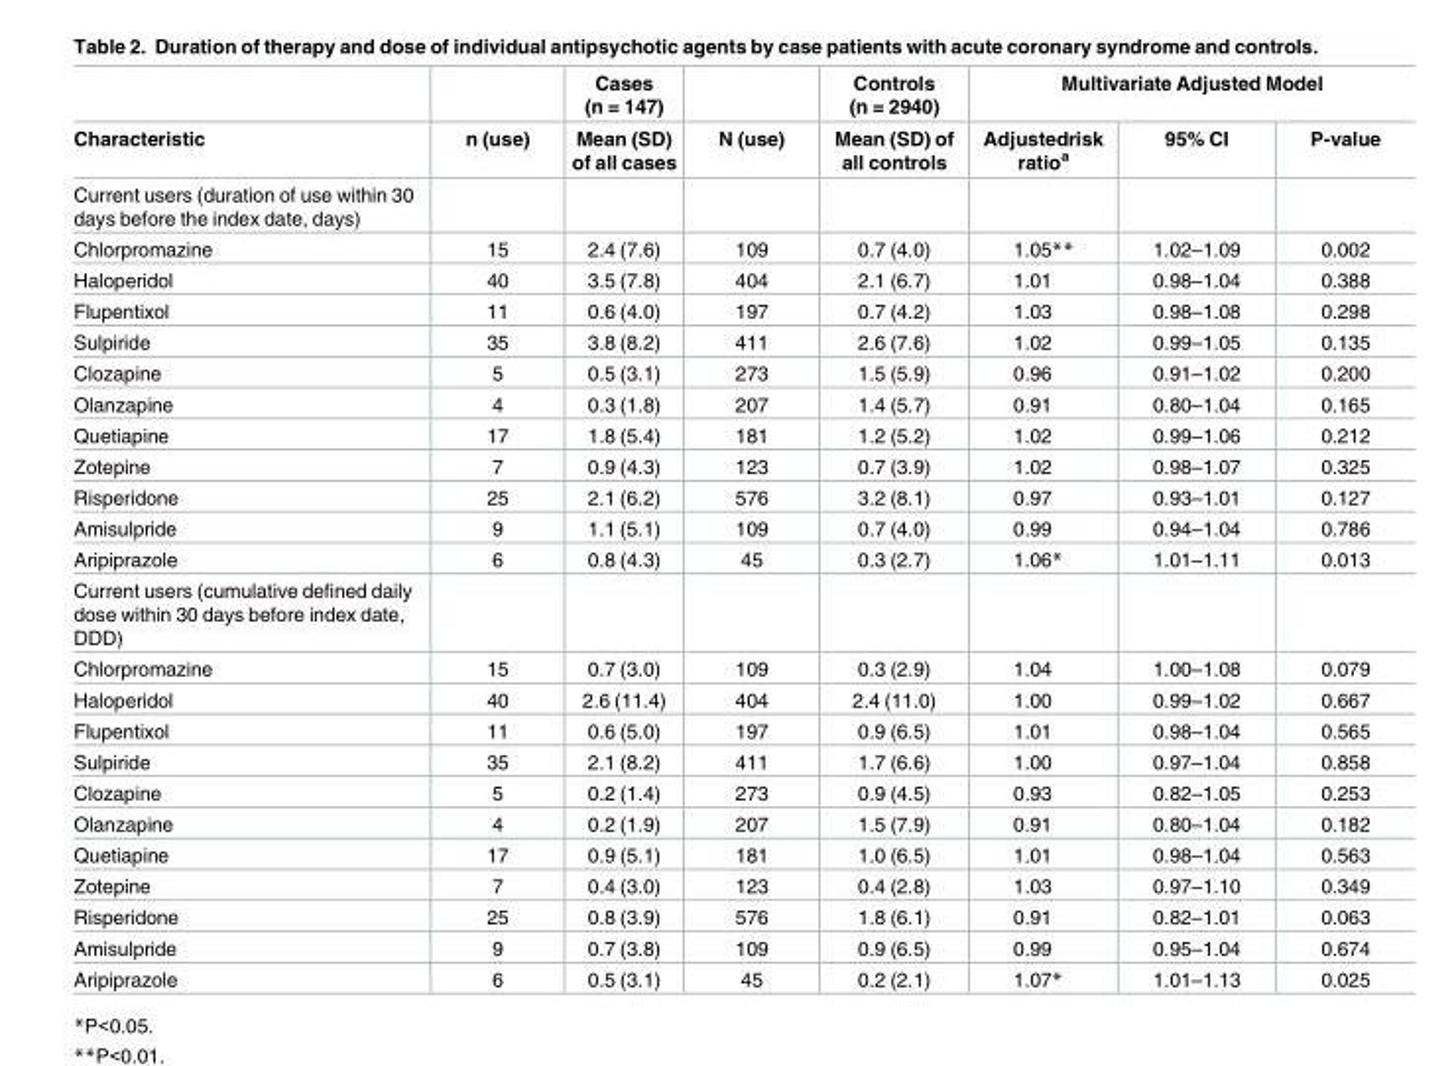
<table><thead><tr><td rowspan="2">Characteristic</td><td rowspan="2">n (use)</td><td rowspan="2">Cases (n = 147) Mean (SD) of all cases</td><td rowspan="2">N (use)</td><td rowspan="2">Controls (n = 2940) Mean (SD) of all controls</td><td colspan="3">Multivariate Adjusted Model</td></tr><tr><td>Adjustedrisk ratio<sup>a</sup></td><td>95% CI</td><td>P-value</td></tr></thead><tbody><tr><td colspan="8">Current users (duration of use within 30 days before the index date, days)</td></tr><tr><td>Chlorpromazine</td><td>15</td><td>2.4 (7.6)</td><td>109</td><td>0.7 (4.0)</td><td>1.05**</td><td>1.02–1.09</td><td>0.002</td></tr><tr><td>Haloperidol</td><td>40</td><td>3.5 (7.8)</td><td>404</td><td>2.1 (6.7)</td><td>1.01</td><td>0.98–1.04</td><td>0.388</td></tr><tr><td>Flupentixol</td><td>11</td><td>0.6 (4.0)</td><td>197</td><td>0.7 (4.2)</td><td>1.03</td><td>0.98–1.08</td><td>0.298</td></tr><tr><td>Sulpiride</td><td>35</td><td>3.8 (8.2)</td><td>411</td><td>2.6 (7.6)</td><td>1.02</td><td>0.99–1.05</td><td>0.135</td></tr><tr><td>Clozapine</td><td>5</td><td>0.5 (3.1)</td><td>273</td><td>1.5 (5.9)</td><td>0.96</td><td>0.91–1.02</td><td>0.200</td></tr><tr><td>Olanzapine</td><td>4</td><td>0.3 (1.8)</td><td>207</td><td>1.4 (5.7)</td><td>0.91</td><td>0.80–1.04</td><td>0.165</td></tr><tr><td>Quetiapine</td><td>17</td><td>1.8 (5.4)</td><td>181</td><td>1.2 (5.2)</td><td>1.02</td><td>0.99–1.06</td><td>0.212</td></tr><tr><td>Zotepine</td><td>7</td><td>0.9 (4.3)</td><td>123</td><td>0.7 (3.9)</td><td>1.02</td><td>0.98–1.07</td><td>0.325</td></tr><tr><td>Risperidone</td><td>25</td><td>2.1 (6.2)</td><td>576</td><td>3.2 (8.1)</td><td>0.97</td><td>0.93–1.01</td><td>0.127</td></tr><tr><td>Amisulpride</td><td>9</td><td>1.1 (5.1)</td><td>109</td><td>0.7 (4.0)</td><td>0.99</td><td>0.94–1.04</td><td>0.786</td></tr><tr><td>Aripiprazole</td><td>6</td><td>0.8 (4.3)</td><td>45</td><td>0.3 (2.7)</td><td>1.06*</td><td>1.01–1.11</td><td>0.013</td></tr><tr><td colspan="8">Current users (cumulative defined daily dose within 30 days before index date, DDD)</td></tr><tr><td>Chlorpromazine</td><td>15</td><td>0.7 (3.0)</td><td>109</td><td>0.3 (2.9)</td><td>1.04</td><td>1.00–1.08</td><td>0.079</td></tr><tr><td>Haloperidol</td><td>40</td><td>2.6 (11.4)</td><td>404</td><td>2.4 (11.0)</td><td>1.00</td><td>0.99–1.02</td><td>0.667</td></tr><tr><td>Flupentixol</td><td>11</td><td>0.6 (5.0)</td><td>197</td><td>0.9 (6.5)</td><td>1.01</td><td>0.98–1.04</td><td>0.565</td></tr><tr><td>Sulpiride</td><td>35</td><td>2.1 (8.2)</td><td>411</td><td>1.7 (6.6)</td><td>1.00</td><td>0.97–1.04</td><td>0.858</td></tr><tr><td>Clozapine</td><td>5</td><td>0.2 (1.4)</td><td>273</td><td>0.9 (4.5)</td><td>0.93</td><td>0.82–1.05</td><td>0.253</td></tr><tr><td>Olanzapine</td><td>4</td><td>0.2 (1.9)</td><td>207</td><td>1.5 (7.9)</td><td>0.91</td><td>0.80–1.04</td><td>0.182</td></tr><tr><td>Quetiapine</td><td>17</td><td>0.9 (5.1)</td><td>181</td><td>1.0 (6.5)</td><td>1.01</td><td>0.98–1.04</td><td>0.563</td></tr><tr><td>Zotepine</td><td>7</td><td>0.4 (3.0)</td><td>123</td><td>0.4 (2.8)</td><td>1.03</td><td>0.97–1.10</td><td>0.349</td></tr><tr><td>Risperidone</td><td>25</td><td>0.8 (3.9)</td><td>576</td><td>1.8 (6.1)</td><td>0.91</td><td>0.82–1.01</td><td>0.063</td></tr><tr><td>Amisulpride</td><td>9</td><td>0.7 (3.8)</td><td>109</td><td>0.9 (6.5)</td><td>0.99</td><td>0.95–1.04</td><td>0.674</td></tr><tr><td>Aripiprazole</td><td>6</td><td>0.5 (3.1)</td><td>45</td><td>0.2 (2.1)</td><td>1.07*</td><td>1.01–1.13</td><td>0.025</td></tr></tbody></table>